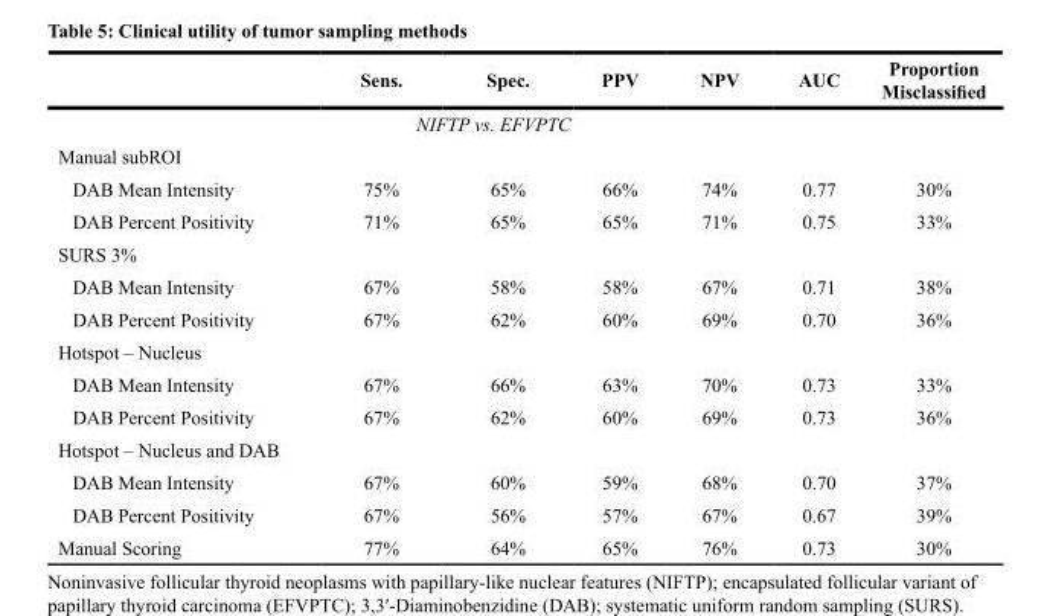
<table><thead><tr><td></td><td>Sens.</td><td>Spec.</td><td>PPV</td><td>NPV</td><td>AUC</td><td>Proportion Misclassified</td></tr></thead><tbody><tr><td></td><td colspan="3">NIFTP vs. EFVPTC</td><td></td><td></td><td></td></tr><tr><td colspan="7">Manual subROI</td></tr><tr><td>DAB Mean Intensity</td><td>75%</td><td>65%</td><td>66%</td><td>74%</td><td>0.77</td><td>30%</td></tr><tr><td>DAB Percent Positivity</td><td>71%</td><td>65%</td><td>65%</td><td>71%</td><td>0.75</td><td>33%</td></tr><tr><td colspan="7">SURS 3%</td></tr><tr><td>DAB Mean Intensity</td><td>67%</td><td>58%</td><td>58%</td><td>67%</td><td>0.71</td><td>38%</td></tr><tr><td>DAB Percent Positivity</td><td>67%</td><td>62%</td><td>60%</td><td>69%</td><td>0.70</td><td>36%</td></tr><tr><td colspan="7">Hotspot – Nucleus</td></tr><tr><td>DAB Mean Intensity</td><td>67%</td><td>66%</td><td>63%</td><td>70%</td><td>0.73</td><td>33%</td></tr><tr><td>DAB Percent Positivity</td><td>67%</td><td>62%</td><td>60%</td><td>69%</td><td>0.73</td><td>36%</td></tr><tr><td colspan="7">Hotspot – Nucleus and DAB</td></tr><tr><td>DAB Mean Intensity</td><td>67%</td><td>60%</td><td>59%</td><td>68%</td><td>0.70</td><td>37%</td></tr><tr><td>DAB Percent Positivity</td><td>67%</td><td>56%</td><td>57%</td><td>67%</td><td>0.67</td><td>39%</td></tr><tr><td>Manual Scoring</td><td>77%</td><td>64%</td><td>65%</td><td>76%</td><td>0.73</td><td>30%</td></tr></tbody></table>